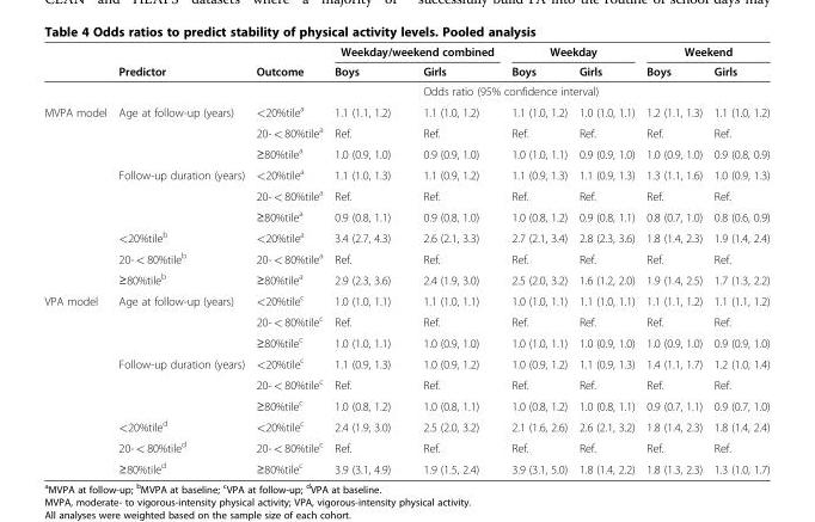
<table><thead><tr><td rowspan="2"></td><td rowspan="2">Predictor</td><td rowspan="2">Outcome</td><td colspan="2">Weekday/weekend combined</td><td colspan="2">Weekday</td><td colspan="2">Weekend</td></tr><tr><td>Boys</td><td>Girls</td><td>Boys</td><td>Girls</td><td>Boys</td><td>Girls</td></tr></thead><tbody><tr><td></td><td></td><td></td><td></td><td colspan="4">Odds ratio (95% confidence interval)</td><td></td></tr><tr><td rowspan="9">MVPA model</td><td rowspan="3">Age at follow-up (years)</td><td>&lt;20%tile<sup>a</sup></td><td>1.1 (1.1, 1.2)</td><td>1.1 (1.0, 1.2)</td><td>1.1 (1.0, 1.2)</td><td>1.0 (1.0, 1.1)</td><td>1.2 (1.1, 1.3)</td><td>1.1 (1.0, 1.2)</td></tr><tr><td>20- &lt; 80%tile<sup>a</sup></td><td>Ref.</td><td>Ref.</td><td>Ref.</td><td>Ref.</td><td>Ref.</td><td>Ref.</td></tr><tr><td>≥80%tile<sup>a</sup></td><td>1.0 (0.9, 1.0)</td><td>0.9 (0.9, 1.0)</td><td>1.0 (1.0, 1.1)</td><td>0.9 (0.9, 1.0)</td><td>1.0 (0.9, 1.0)</td><td>0.9 (0.8, 0.9)</td></tr><tr><td rowspan="3">Follow-up duration (years)</td><td>&lt;20%tile<sup>a</sup></td><td>1.1 (1.0, 1.3)</td><td>1.1 (0.9, 1.2)</td><td>1.1 (0.9, 1.3)</td><td>1.1 (0.9, 1.3)</td><td>1.3 (1.1, 1.6)</td><td>1.0 (0.9, 1.3)</td></tr><tr><td>20- &lt; 80%tile<sup>a</sup></td><td>Ref.</td><td>Ref.</td><td>Ref.</td><td>Ref.</td><td>Ref.</td><td>Ref.</td></tr><tr><td>≥80%tile<sup>a</sup></td><td>0.9 (0.8, 1.1)</td><td>0.9 (0.8, 1.0)</td><td>1.0 (0.8, 1.2)</td><td>0.9 (0.8, 1.1)</td><td>0.8 (0.7, 1.0)</td><td>0.8 (0.6, 0.9)</td></tr><tr><td>&lt;20%tile<sup>b</sup></td><td>&lt;20%tile<sup>a</sup></td><td>3.4 (2.7, 4.3)</td><td>2.6 (2.1, 3.3)</td><td>2.7 (2.1, 3.4)</td><td>2.8 (2.3, 3.6)</td><td>1.8 (1.4, 2.3)</td><td>1.9 (1.4, 2.4)</td></tr><tr><td>20- &lt; 80%tile<sup>b</sup></td><td>20- &lt; 80%tile<sup>a</sup></td><td>Ref.</td><td>Ref.</td><td>Ref.</td><td>Ref.</td><td>Ref.</td><td>Ref.</td></tr><tr><td>≥80%tile<sup>b</sup></td><td>≥80%tile<sup>a</sup></td><td>2.9 (2.3, 3.6)</td><td>2.4 (1.9, 3.0)</td><td>2.5 (2.0, 3.2)</td><td>1.6 (1.2, 2.0)</td><td>1.9 (1.4, 2.5)</td><td>1.7 (1.3, 2.2)</td></tr><tr><td rowspan="9">VPA model</td><td rowspan="3">Age at follow-up (years)</td><td>&lt;20%tile<sup>c</sup></td><td>1.0 (1.0, 1.1)</td><td>1.1 (1.0, 1.1)</td><td>1.0 (1.0, 1.1)</td><td>1.1 (1.0, 1.1)</td><td>1.1 (1.1, 1.2)</td><td>1.1 (1.1, 1.2)</td></tr><tr><td>20- &lt; 80%tile<sup>c</sup></td><td>Ref.</td><td>Ref.</td><td>Ref.</td><td>Ref.</td><td>Ref.</td><td>Ref.</td></tr><tr><td>≥80%tile<sup>c</sup></td><td>1.0 (1.0, 1.1)</td><td>1.0 (0.9, 1.0)</td><td>1.0 (1.0, 1.1)</td><td>1.0 (0.9, 1.0)</td><td>1.0 (0.9, 1.0)</td><td>0.9 (0.9, 1.0)</td></tr><tr><td rowspan="3">Follow-up duration (years)</td><td>&lt;20%tile<sup>c</sup></td><td>1.1 (0.9, 1.3)</td><td>1.0 (0.9, 1.2)</td><td>1.0 (0.9, 1.2)</td><td>1.1 (0.9, 1.3)</td><td>1.4 (1.1, 1.7)</td><td>1.2 (1.0, 1.4)</td></tr><tr><td>20- &lt; 80%tile<sup>c</sup></td><td>Ref.</td><td>Ref.</td><td>Ref.</td><td>Ref.</td><td>Ref.</td><td>Ref.</td></tr><tr><td>≥80%tile<sup>c</sup></td><td>1.0 (0.8, 1.2)</td><td>1.0 (0.8, 1.1)</td><td>1.0 (0.8, 1.2)</td><td>1.0 (0.8, 1.1)</td><td>0.9 (0.7, 1.1)</td><td>0.9 (0.7, 1.0)</td></tr><tr><td>&lt;20%tile<sup>d</sup></td><td>&lt;20%tile<sup>c</sup></td><td>2.4 (1.9, 3.0)</td><td>2.5 (2.0, 3.2)</td><td>2.1 (1.6, 2.6)</td><td>2.6 (2.1, 3.2)</td><td>1.8 (1.4, 2.3)</td><td>1.8 (1.4, 2.4)</td></tr><tr><td>20- &lt; 80%tile<sup>d</sup></td><td>20- &lt; 80%tile<sup>c</sup></td><td>Ref.</td><td>Ref.</td><td>Ref.</td><td>Ref.</td><td>Ref.</td><td>Ref.</td></tr><tr><td>≥80%tile<sup>d</sup></td><td>≥80%tile<sup>c</sup></td><td>3.9 (3.1, 4.9)</td><td>1.9 (1.5, 2.4)</td><td>3.9 (3.1, 5.0)</td><td>1.8 (1.4, 2.2)</td><td>1.8 (1.3, 2.3)</td><td>1.3 (1.0, 1.7)</td></tr></tbody></table>